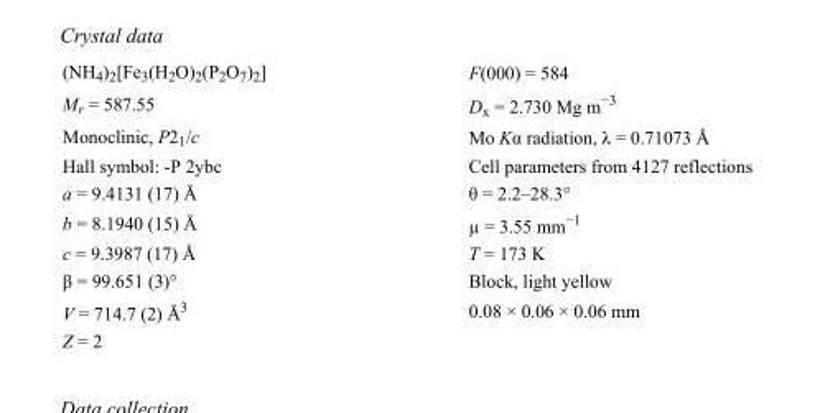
<table><tbody><tr><td>(NH<sub>4</sub>)<sub>2</sub>[Fe<sub>3</sub>(H<sub>2</sub>O)<sub>2</sub>(P<sub>2</sub>O<sub>7</sub>)<sub>2</sub>]</td><td>F(000) = 584</td></tr><tr><td>M<sub>r</sub> = 587.55</td><td>D<sub>x</sub> = 2.730 Mg m<sup>−3</sup></td></tr><tr><td>Monoclinic, P2<sub>1</sub>/c</td><td>Mo Kα radiation, λ = 0.71073 Å</td></tr><tr><td>Hall symbol: -P 2ybc</td><td>Cell parameters from 4127 reflections</td></tr><tr><td>a = 9.4131 (17) Å</td><td>θ = 2.2–28.3°</td></tr><tr><td>b = 8.1940 (15) Å</td><td>µ = 3.55 mm<sup>−1</sup></td></tr><tr><td>c = 9.3987 (17) Å</td><td>T = 173 K</td></tr><tr><td>β = 99.651 (3)°</td><td>Block, light yellow</td></tr><tr><td>V = 714.7 (2) Å<sup>3</sup></td><td>0.08 × 0.06 × 0.06 mm</td></tr><tr><td>Z = 2</td><td></td></tr></tbody></table>